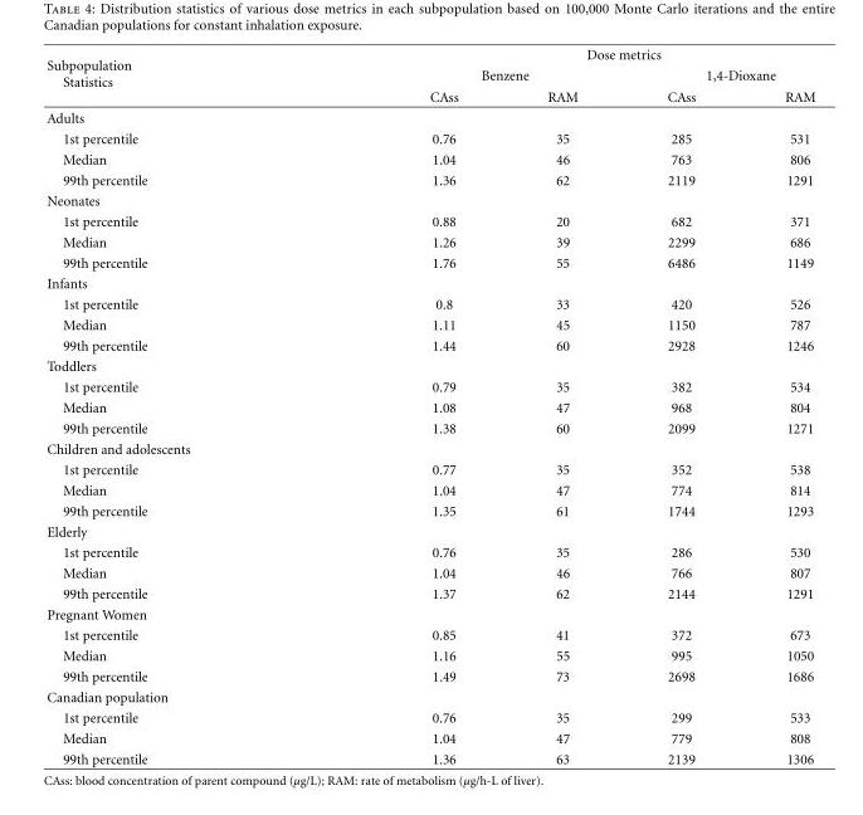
<table><thead><tr><td rowspan="3">Subpopulation Statistics</td><td colspan="4">Dose metrics</td></tr><tr><td colspan="2">Benzene</td><td colspan="2">1,4-Dioxane</td></tr><tr><td>CAss</td><td>RAM</td><td>CAss</td><td>RAM</td></tr></thead><tbody><tr><td colspan="5">Adults</td></tr><tr><td>1st percentile</td><td>0.76</td><td>35</td><td>285</td><td>531</td></tr><tr><td>Median</td><td>1.04</td><td>46</td><td>763</td><td>806</td></tr><tr><td>99th percentile</td><td>1.36</td><td>62</td><td>2119</td><td>1291</td></tr><tr><td colspan="5">Neonates</td></tr><tr><td>1st percentile</td><td>0.88</td><td>20</td><td>682</td><td>371</td></tr><tr><td>Median</td><td>1.26</td><td>39</td><td>2299</td><td>686</td></tr><tr><td>99th percentile</td><td>1.76</td><td>55</td><td>6486</td><td>1149</td></tr><tr><td colspan="5">Infants</td></tr><tr><td>1st percentile</td><td>0.8</td><td>33</td><td>420</td><td>526</td></tr><tr><td>Median</td><td>1.11</td><td>45</td><td>1150</td><td>787</td></tr><tr><td>99th percentile</td><td>1.44</td><td>60</td><td>2928</td><td>1246</td></tr><tr><td colspan="5">Toddlers</td></tr><tr><td>1st percentile</td><td>0.79</td><td>35</td><td>382</td><td>534</td></tr><tr><td>Median</td><td>1.08</td><td>47</td><td>968</td><td>804</td></tr><tr><td>99th percentile</td><td>1.38</td><td>60</td><td>2099</td><td>1271</td></tr><tr><td colspan="5">Children and adolescents</td></tr><tr><td>1st percentile</td><td>0.77</td><td>35</td><td>352</td><td>538</td></tr><tr><td>Median</td><td>1.04</td><td>47</td><td>774</td><td>814</td></tr><tr><td>99th percentile</td><td>1.35</td><td>61</td><td>1744</td><td>1293</td></tr><tr><td colspan="5">Elderly</td></tr><tr><td>1st percentile</td><td>0.76</td><td>35</td><td>286</td><td>530</td></tr><tr><td>Median</td><td>1.04</td><td>46</td><td>766</td><td>807</td></tr><tr><td>99th percentile</td><td>1.37</td><td>62</td><td>2144</td><td>1291</td></tr><tr><td colspan="5">Pregnant Women</td></tr><tr><td>1st percentile</td><td>0.85</td><td>41</td><td>372</td><td>673</td></tr><tr><td>Median</td><td>1.16</td><td>55</td><td>995</td><td>1050</td></tr><tr><td>99th percentile</td><td>1.49</td><td>73</td><td>2698</td><td>1686</td></tr><tr><td colspan="5">Canadian population</td></tr><tr><td>1st percentile</td><td>0.76</td><td>35</td><td>299</td><td>533</td></tr><tr><td>Median</td><td>1.04</td><td>47</td><td>779</td><td>808</td></tr><tr><td>99th percentile</td><td>1.36</td><td>63</td><td>2139</td><td>1306</td></tr></tbody></table>